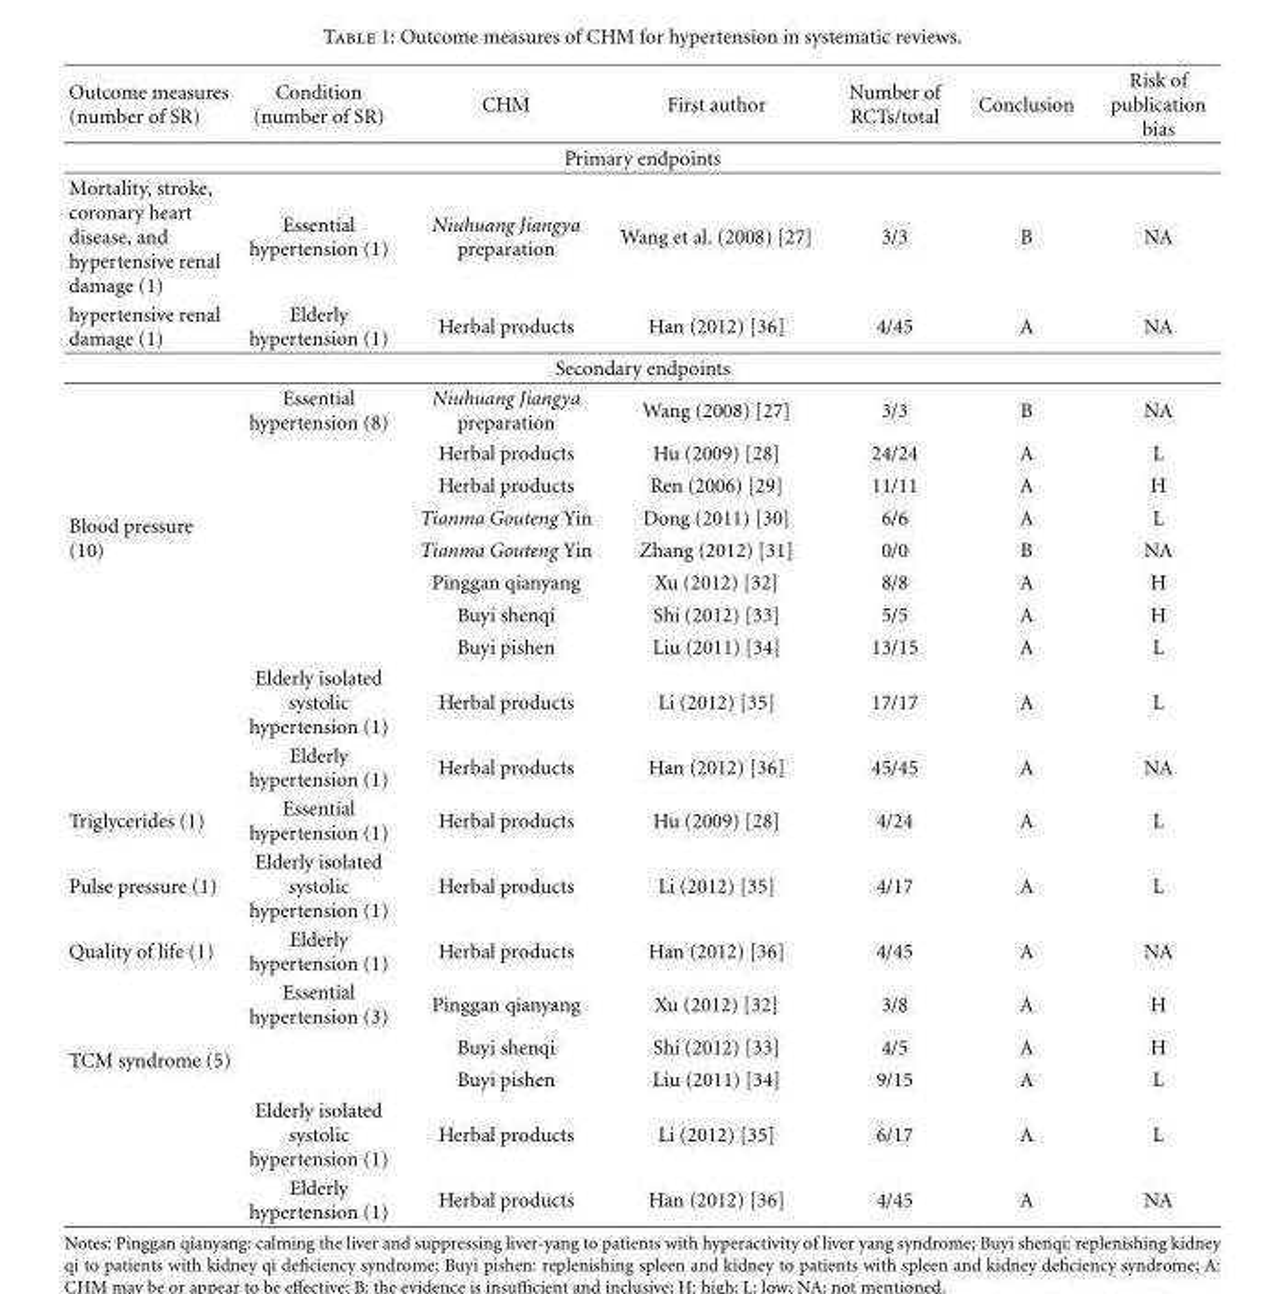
<table><thead><tr><td>Outcome measures (number of SR)</td><td>Condition (number of SR)</td><td>CHM</td><td>First author</td><td>Number of RCTs/total</td><td>Conclusion</td><td>Risk of publication bias</td></tr></thead><tbody><tr><td colspan="7">Primary endpoints</td></tr><tr><td>Mortality, stroke, coronary heart disease, and hypertensive renal damage (1)</td><td>Essential hypertension (1)</td><td>Niuhuang Jiangya preparation</td><td>Wang et al. (2008) [27]</td><td>3/3</td><td>B</td><td>NA</td></tr><tr><td>hypertensive renal damage (1)</td><td>Elderly hypertension (1)</td><td>Herbal products</td><td>Han (2012) [36]</td><td>4/45</td><td>A</td><td>NA</td></tr><tr><td colspan="7">Secondary endpoints</td></tr><tr><td rowspan="10">Blood pressure (10)</td><td>Essential hypertension (8)</td><td>Niuhuang Jiangya preparation</td><td>Wang (2008) [27]</td><td>3/3</td><td>B</td><td>NA</td></tr><tr><td></td><td>Herbal products</td><td>Hu (2009) [28]</td><td>24/24</td><td>A</td><td>L</td></tr><tr><td></td><td>Herbal products</td><td>Ren (2006) [29]</td><td>11/11</td><td>A</td><td>H</td></tr><tr><td></td><td>Tianma Gouteng Yin</td><td>Dong (2011) [30]</td><td>6/6</td><td>A</td><td>L</td></tr><tr><td></td><td>Tianma Gouteng Yin</td><td>Zhang (2012) [31]</td><td>0/0</td><td>B</td><td>NA</td></tr><tr><td></td><td>Pinggan qianyang</td><td>Xu (2012) [32]</td><td>8/8</td><td>A</td><td>H</td></tr><tr><td></td><td>Buyi shenqi</td><td>Shi (2012) [33]</td><td>5/5</td><td>A</td><td>H</td></tr><tr><td></td><td>Buyi pishen</td><td>Liu (2011) [34]</td><td>13/15</td><td>A</td><td>L</td></tr><tr><td>Elderly isolated systolic hypertension (1)</td><td>Herbal products</td><td>Li (2012) [35]</td><td>17/17</td><td>A</td><td>L</td></tr><tr><td>Elderly hypertension (1)</td><td>Herbal products</td><td>Han (2012) [36]</td><td>45/45</td><td>A</td><td>NA</td></tr><tr><td>Triglycerides (1)</td><td>Essential hypertension (1)</td><td>Herbal products</td><td>Hu (2009) [28]</td><td>4/24</td><td>A</td><td>L</td></tr><tr><td>Pulse pressure (1)</td><td>Elderly isolated systolic hypertension (1)</td><td>Herbal products</td><td>Li (2012) [35]</td><td>4/17</td><td>A</td><td>L</td></tr><tr><td>Quality of life (1)</td><td>Elderly hypertension (1)</td><td>Herbal products</td><td>Han (2012) [36]</td><td>4/45</td><td>A</td><td>NA</td></tr><tr><td rowspan="5">TCM syndrome (5)</td><td>Essential hypertension (3)</td><td>Pinggan qianyang</td><td>Xu (2012) [32]</td><td>3/8</td><td>A</td><td>H</td></tr><tr><td></td><td>Buyi shenqi</td><td>Shi (2012) [33]</td><td>4/5</td><td>A</td><td>H</td></tr><tr><td></td><td>Buyi pishen</td><td>Liu (2011) [34]</td><td>9/15</td><td>A</td><td>L</td></tr><tr><td>Elderly isolated systolic hypertension (1)</td><td>Herbal products</td><td>Li (2012) [35]</td><td>6/17</td><td>A</td><td>L</td></tr><tr><td>Elderly hypertension (1)</td><td>Herbal products</td><td>Han (2012) [36]</td><td>4/45</td><td>A</td><td>NA</td></tr></tbody></table>